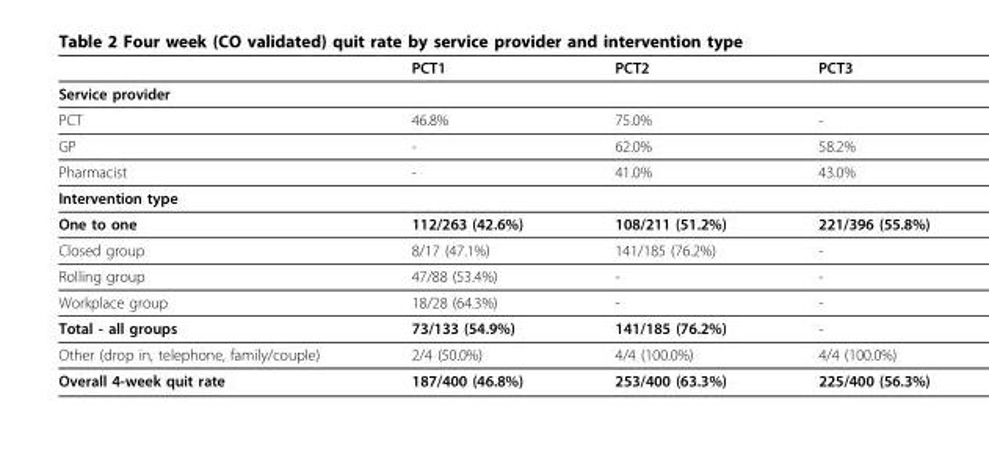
<table><thead><tr><td></td><td>PCT1</td><td>PCT2</td><td>PCT3</td></tr></thead><tbody><tr><td colspan="4">Service provider</td></tr><tr><td>PCT</td><td>46.8%</td><td>75.0%</td><td>-</td></tr><tr><td>GP</td><td>-</td><td>62.0%</td><td>58.2%</td></tr><tr><td>Pharmacist</td><td>-</td><td>41.0%</td><td>43.0%</td></tr><tr><td colspan="4">Intervention type</td></tr><tr><td>One to one</td><td>112/263 (42.6%)</td><td>108/211 (51.2%)</td><td>221/396 (55.8%)</td></tr><tr><td>Closed group</td><td>8/17 (47.1%)</td><td>141/185 (76.2%)</td><td>-</td></tr><tr><td>Rolling group</td><td>47/88 (53.4%)</td><td>-</td><td>-</td></tr><tr><td>Workplace group</td><td>18/28 (64.3%)</td><td>-</td><td>-</td></tr><tr><td>Total - all groups</td><td>73/133 (54.9%)</td><td>141/185 (76.2%)</td><td>-</td></tr><tr><td>Other (drop in, telephone, family/couple)</td><td>2/4 (50.0%)</td><td>4/4 (100.0%)</td><td>4/4 (100.0%)</td></tr><tr><td>Overall 4-week quit rate</td><td>187/400 (46.8%)</td><td>253/400 (63.3%)</td><td>225/400 (56.3%)</td></tr></tbody></table>